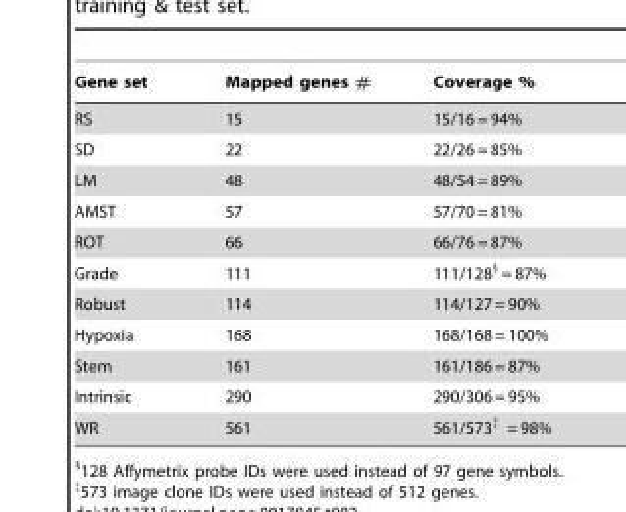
<table><thead><tr><td>Gene set</td><td>Mapped genes #</td><td>Coverage %</td></tr></thead><tbody><tr><td>RS</td><td>15</td><td>15/16 = 94%</td></tr><tr><td>SD</td><td>22</td><td>22/26 = 85%</td></tr><tr><td>LM</td><td>48</td><td>48/54 = 89%</td></tr><tr><td>AMST</td><td>57</td><td>57/70 = 81%</td></tr><tr><td>ROT</td><td>66</td><td>66/76 = 87%</td></tr><tr><td>Grade</td><td>111</td><td>111/128§ = 87%</td></tr><tr><td>Robust</td><td>114</td><td>114/127 = 90%</td></tr><tr><td>Hypoxia</td><td>168</td><td>168/168 = 100%</td></tr><tr><td>Stem</td><td>161</td><td>161/186 = 87%</td></tr><tr><td>Intrinsic</td><td>290</td><td>290/306 = 95%</td></tr><tr><td>WR</td><td>561</td><td>561/573‡ = 98%</td></tr></tbody></table>